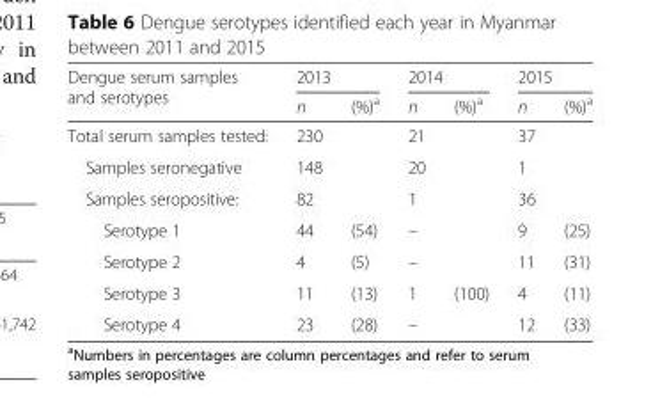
<table><thead><tr><td rowspan="2">Dengue serum samples and serotypes</td><td colspan="2">2013</td><td colspan="2">2014</td><td colspan="2">2015</td></tr><tr><td>n</td><td>(%)<sup>a</sup></td><td>n</td><td>(%)<sup>a</sup></td><td>n</td><td>(%)<sup>a</sup></td></tr></thead><tbody><tr><td>Total serum samples tested:</td><td>230</td><td></td><td>21</td><td></td><td>37</td><td></td></tr><tr><td>Samples seronegative</td><td>148</td><td></td><td>20</td><td></td><td>1</td><td></td></tr><tr><td>Samples seropositive:</td><td>82</td><td></td><td>1</td><td></td><td>36</td><td></td></tr><tr><td>Serotype 1</td><td>44</td><td>(54)</td><td>–</td><td></td><td>9</td><td>(25)</td></tr><tr><td>Serotype 2</td><td>4</td><td>(5)</td><td>–</td><td></td><td>11</td><td>(31)</td></tr><tr><td>Serotype 3</td><td>11</td><td>(13)</td><td>1</td><td>(100)</td><td>4</td><td>(11)</td></tr><tr><td>Serotype 4</td><td>23</td><td>(28)</td><td>–</td><td></td><td>12</td><td>(33)</td></tr></tbody></table>